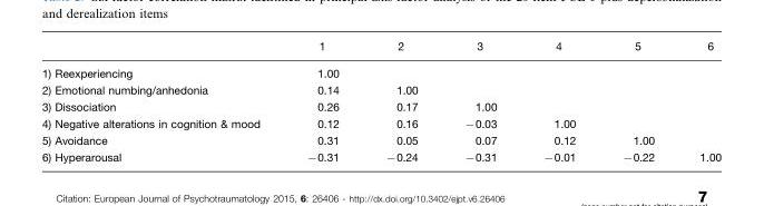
<table><thead><tr><td></td><td>1</td><td>2</td><td>3</td><td>4</td><td>5</td><td>6</td></tr></thead><tbody><tr><td>1) Reexperiencing</td><td>1.00</td><td></td><td></td><td></td><td></td><td></td></tr><tr><td>2) Emotional numbing/anhedonia</td><td>0.14</td><td>1.00</td><td></td><td></td><td></td><td></td></tr><tr><td>3) Dissociation</td><td>0.26</td><td>0.17</td><td>1.00</td><td></td><td></td><td></td></tr><tr><td>4) Negative alterations in cognition &amp; mood</td><td>0.12</td><td>0.16</td><td>−0.03</td><td>1.00</td><td></td><td></td></tr><tr><td>5) Avoidance</td><td>0.31</td><td>0.05</td><td>0.07</td><td>0.12</td><td>1.00</td><td></td></tr><tr><td>6) Hyperarousal</td><td>−0.31</td><td>−0.24</td><td>−0.31</td><td>−0.01</td><td>−0.22</td><td>1.00</td></tr></tbody></table>